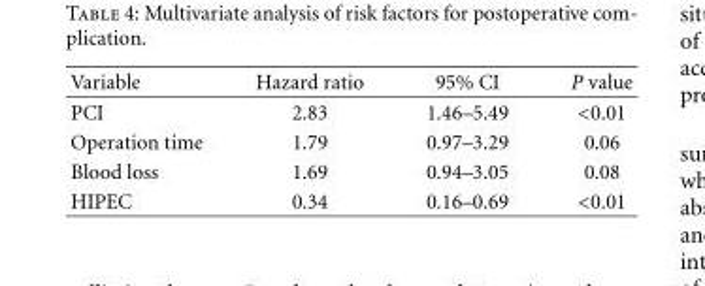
<table><thead><tr><td>Variable</td><td>Hazard ratio</td><td>95% CI</td><td>P value</td></tr></thead><tbody><tr><td>PCI</td><td>2.83</td><td>1.46–5.49</td><td>&lt;0.01</td></tr><tr><td>Operation time</td><td>1.79</td><td>0.97–3.29</td><td>0.06</td></tr><tr><td>Blood loss</td><td>1.69</td><td>0.94–3.05</td><td>0.08</td></tr><tr><td>HIPEC</td><td>0.34</td><td>0.16–0.69</td><td>&lt;0.01</td></tr></tbody></table>